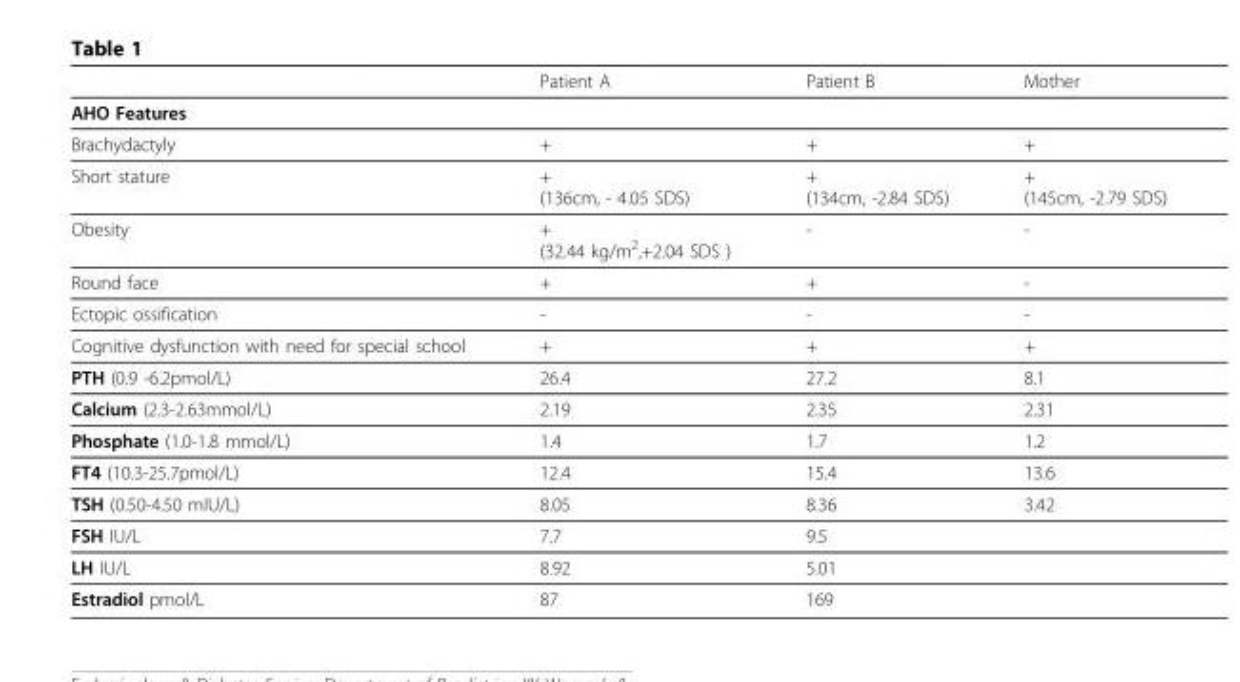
<table><thead><tr><td></td><td>Patient A</td><td>Patient B</td><td>Mother</td></tr></thead><tbody><tr><td colspan="4">AHO Features</td></tr><tr><td>Brachydactyly</td><td>+</td><td>+</td><td>+</td></tr><tr><td>Short stature</td><td>+ (136cm, - 4.05 SDS)</td><td>+ (134cm, -2.84 SDS)</td><td>+ (145cm, -2.79 SDS)</td></tr><tr><td>Obesity</td><td>+ (32.44 kg/m<sup>2</sup>,+2.04 SDS )</td><td>-</td><td>-</td></tr><tr><td>Round face</td><td>+</td><td>+</td><td>-</td></tr><tr><td>Ectopic ossification</td><td>-</td><td>-</td><td>-</td></tr><tr><td>Cognitive dysfunction with need for special school</td><td>+</td><td>+</td><td>+</td></tr><tr><td>PTH (0.9 -6.2pmol/L)</td><td>26.4</td><td>27.2</td><td>8.1</td></tr><tr><td>Calcium (2.3-2.63mmol/L)</td><td>2.19</td><td>2.35</td><td>2.31</td></tr><tr><td>Phosphate (1.0-1.8 mmol/L)</td><td>1.4</td><td>1.7</td><td>1.2</td></tr><tr><td>FT4 (10.3-25.7pmol/L)</td><td>12.4</td><td>15.4</td><td>13.6</td></tr><tr><td>TSH (0.50-4.50 mIU/L)</td><td>8.05</td><td>8.36</td><td>3.42</td></tr><tr><td>FSH IU/L</td><td>7.7</td><td>9.5</td><td></td></tr><tr><td>LH IU/L</td><td>8.92</td><td>5.01</td><td></td></tr><tr><td>Estradiol pmol/L</td><td>87</td><td>169</td><td></td></tr></tbody></table>